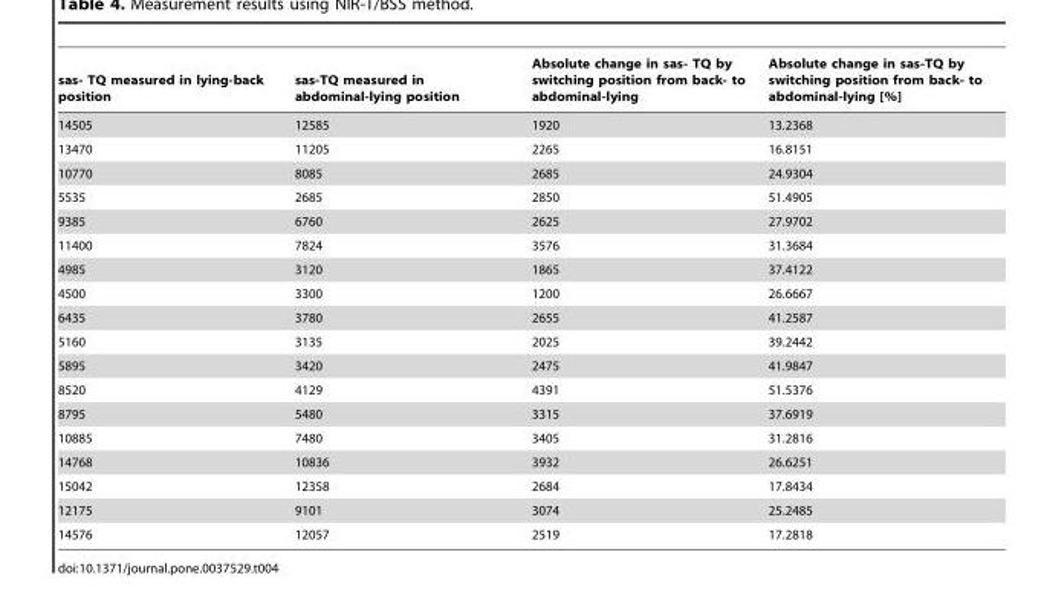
<table><thead><tr><td>sas- TQ measured in lying-back position</td><td>sas-TQ measured in abdominal-lying position</td><td>Absolute change in sas- TQ by switching position from back- to abdominal-lying</td><td>Absolute change in sas-TQ by switching position from back- to abdominal-lying [%]</td></tr></thead><tbody><tr><td>14505</td><td>12585</td><td>1920</td><td>13.2368</td></tr><tr><td>13470</td><td>11205</td><td>2265</td><td>16.8151</td></tr><tr><td>10770</td><td>8085</td><td>2685</td><td>24.9304</td></tr><tr><td>5535</td><td>2685</td><td>2850</td><td>51.4905</td></tr><tr><td>9385</td><td>6760</td><td>2625</td><td>27.9702</td></tr><tr><td>11400</td><td>7824</td><td>3576</td><td>31.3684</td></tr><tr><td>4985</td><td>3120</td><td>1865</td><td>37.4122</td></tr><tr><td>4500</td><td>3300</td><td>1200</td><td>26.6667</td></tr><tr><td>6435</td><td>3780</td><td>2655</td><td>41.2587</td></tr><tr><td>5160</td><td>3135</td><td>2025</td><td>39.2442</td></tr><tr><td>5895</td><td>3420</td><td>2475</td><td>41.9847</td></tr><tr><td>8520</td><td>4129</td><td>4391</td><td>51.5376</td></tr><tr><td>8795</td><td>5480</td><td>3315</td><td>37.6919</td></tr><tr><td>10885</td><td>7480</td><td>3405</td><td>31.2816</td></tr><tr><td>14768</td><td>10836</td><td>3932</td><td>26.6251</td></tr><tr><td>15042</td><td>12358</td><td>2684</td><td>17.8434</td></tr><tr><td>12175</td><td>9101</td><td>3074</td><td>25.2485</td></tr><tr><td>14576</td><td>12057</td><td>2519</td><td>17.2818</td></tr></tbody></table>